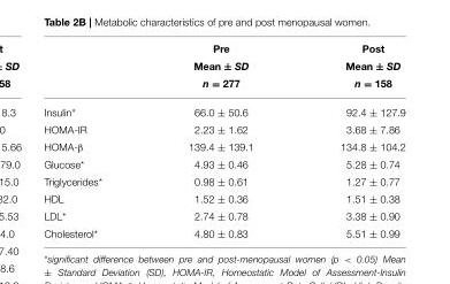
<table><thead><tr><td rowspan="3"></td><td rowspan="3">Pre Mean ± SD n = 277</td><td rowspan="3">Post Mean ± SD n = 158</td></tr><tr></tr><tr></tr></thead><tbody><tr><td>Insulin*</td><td>66.0 ± 50.6</td><td>92.4 ± 127.9</td></tr><tr><td>HOMA-IR</td><td>2.23 ± 1.62</td><td>3.68 ± 7.86</td></tr><tr><td>HOMA-β</td><td>139.4 ± 139.1</td><td>134.8 ± 104.2</td></tr><tr><td>Glucose*</td><td>4.93 ± 0.46</td><td>5.28 ± 0.74</td></tr><tr><td>Triglycerides*</td><td>0.98 ± 0.61</td><td>1.27 ± 0.77</td></tr><tr><td>HDL</td><td>1.52 ± 0.36</td><td>1.51 ± 0.38</td></tr><tr><td>LDL*</td><td>2.74 ± 0.78</td><td>3.38 ± 0.90</td></tr><tr><td>Cholesterol*</td><td>4.80 ± 0.83</td><td>5.51 ± 0.99</td></tr></tbody></table>